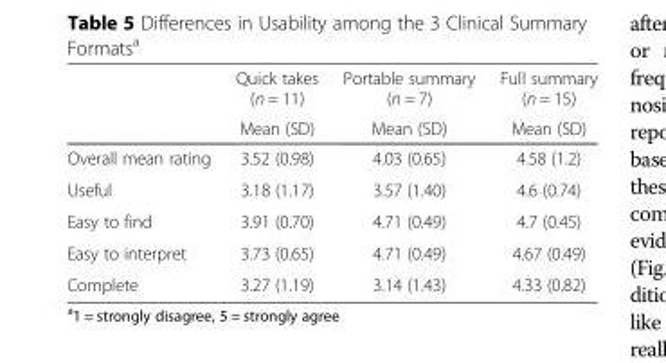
<table><thead><tr><td rowspan="2"></td><td rowspan="2">Quick takes (n = 11) Mean (SD)</td><td rowspan="2">Portable summary (n = 7) Mean (SD)</td><td rowspan="2">Full summary (n = 15) Mean (SD)</td></tr><tr></tr></thead><tbody><tr><td>Overall mean rating</td><td>3.52 (0.98)</td><td>4.03 (0.65)</td><td>4.58 (1.2)</td></tr><tr><td>Useful</td><td>3.18 (1.17)</td><td>3.57 (1.40)</td><td>4.6 (0.74)</td></tr><tr><td>Easy to find</td><td>3.91 (0.70)</td><td>4.71 (0.49)</td><td>4.7 (0.45)</td></tr><tr><td>Easy to interpret</td><td>3.73 (0.65)</td><td>4.71 (0.49)</td><td>4.67 (0.49)</td></tr><tr><td>Complete</td><td>3.27 (1.19)</td><td>3.14 (1.43)</td><td>4.33 (0.82)</td></tr></tbody></table>